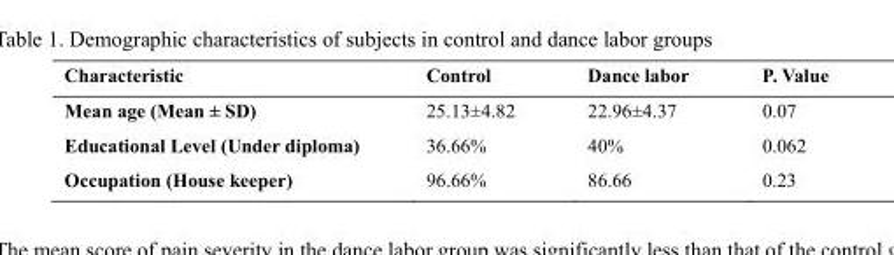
<table><thead><tr><td>Characteristic</td><td>Control</td><td>Dance labor</td><td>P. Value</td></tr></thead><tbody><tr><td>Mean age (Mean ± SD)</td><td>25.13±4.82</td><td>22.96±4.37</td><td>0.07</td></tr><tr><td>Educational Level (Under diploma)</td><td>36.66%</td><td>40%</td><td>0.062</td></tr><tr><td>Occupation (House keeper)</td><td>96.66%</td><td>86.66</td><td>0.23</td></tr></tbody></table>